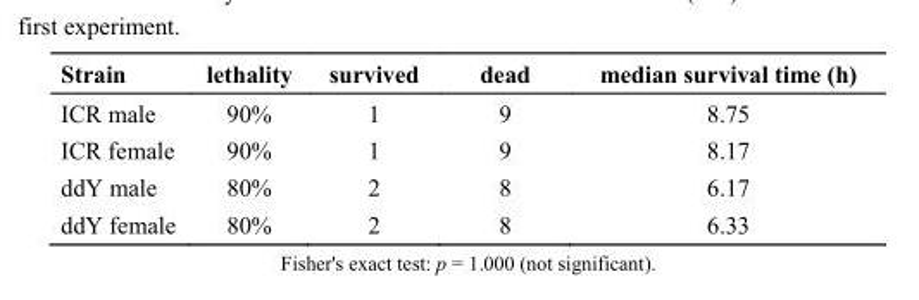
<table><thead><tr><td>Strain</td><td>lethality</td><td>survived</td><td>dead</td><td>median survival time (h)</td></tr></thead><tbody><tr><td>ICR male</td><td>90%</td><td>1</td><td>9</td><td>8.75</td></tr><tr><td>ICR female</td><td>90%</td><td>1</td><td>9</td><td>8.17</td></tr><tr><td>ddY male</td><td>80%</td><td>2</td><td>8</td><td>6.17</td></tr><tr><td>ddY female</td><td>80%</td><td>2</td><td>8</td><td>6.33</td></tr></tbody></table>